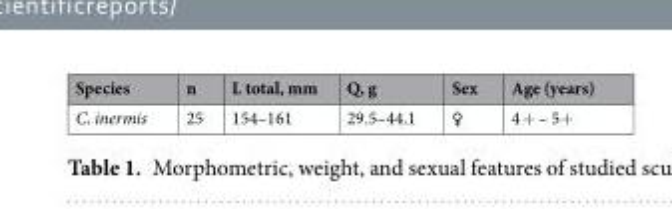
<table><thead><tr><td>Species</td><td>n</td><td>L total, mm</td><td>Q, g</td><td>Sex</td><td>Age (years)</td></tr></thead><tbody><tr><td>C. inermis</td><td>25</td><td>154–161</td><td>29.5–44.1</td><td>♀</td><td>4 + – 5+</td></tr></tbody></table>